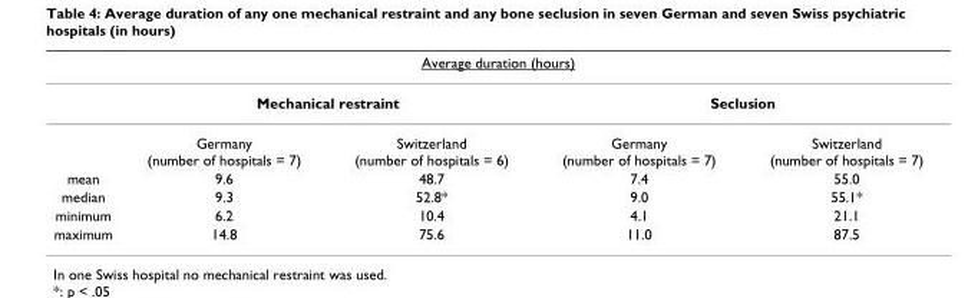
<table><thead><tr><td colspan="5">Average duration (hours)</td></tr><tr><td rowspan="2"></td><td colspan="2">Mechanical restraint</td><td colspan="2">Seclusion</td></tr><tr><td>Germany (number of hospitals = 7)</td><td>Switzerland (number of hospitals = 6)</td><td>Germany (number of hospitals = 7)</td><td>Switzerland (number of hospitals = 7)</td></tr></thead><tbody><tr><td>mean</td><td>9.6</td><td>48.7</td><td>7.4</td><td>55.0</td></tr><tr><td>median</td><td>9.3</td><td>52.8*</td><td>9.0</td><td>55.1*</td></tr><tr><td>minimum</td><td>6.2</td><td>10.4</td><td>4.1</td><td>21.1</td></tr><tr><td>maximum</td><td>14.8</td><td>75.6</td><td>11.0</td><td>87.5</td></tr></tbody></table>